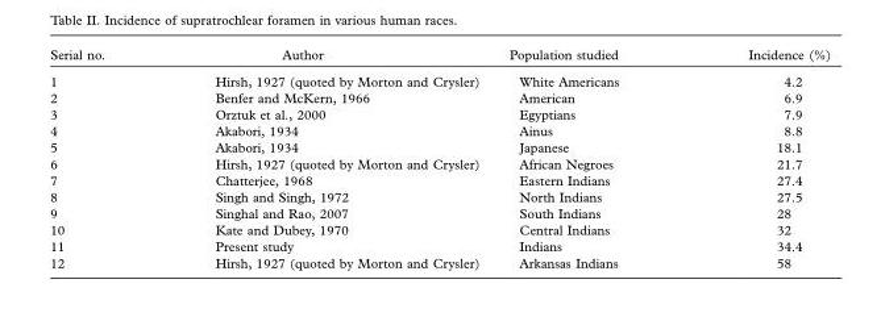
<table><thead><tr><td>Serial no.</td><td>Author</td><td>Population studied</td><td>Incidence (%)</td></tr></thead><tbody><tr><td>1</td><td>Hirsh, 1927 (quoted by Morton and Crysler)</td><td>White Americans</td><td>4.2</td></tr><tr><td>2</td><td>Benfer and McKern, 1966</td><td>American</td><td>6.9</td></tr><tr><td>3</td><td>Orztuk et al., 2000</td><td>Egyptians</td><td>7.9</td></tr><tr><td>4</td><td>Akabori, 1934</td><td>Ainus</td><td>8.8</td></tr><tr><td>5</td><td>Akabori, 1934</td><td>Japanese</td><td>18.1</td></tr><tr><td>6</td><td>Hirsh, 1927 (quoted by Morton and Crysler)</td><td>African Negroes</td><td>21.7</td></tr><tr><td>7</td><td>Chatterjee, 1968</td><td>Eastern Indians</td><td>27.4</td></tr><tr><td>8</td><td>Singh and Singh, 1972</td><td>North Indians</td><td>27.5</td></tr><tr><td>9</td><td>Singhal and Rao, 2007</td><td>South Indians</td><td>28</td></tr><tr><td>10</td><td>Kate and Dubey, 1970</td><td>Central Indians</td><td>32</td></tr><tr><td>11</td><td>Present study</td><td>Indians</td><td>34.4</td></tr><tr><td>12</td><td>Hirsh, 1927 (quoted by Morton and Crysler)</td><td>Arkansas Indians</td><td>58</td></tr></tbody></table>